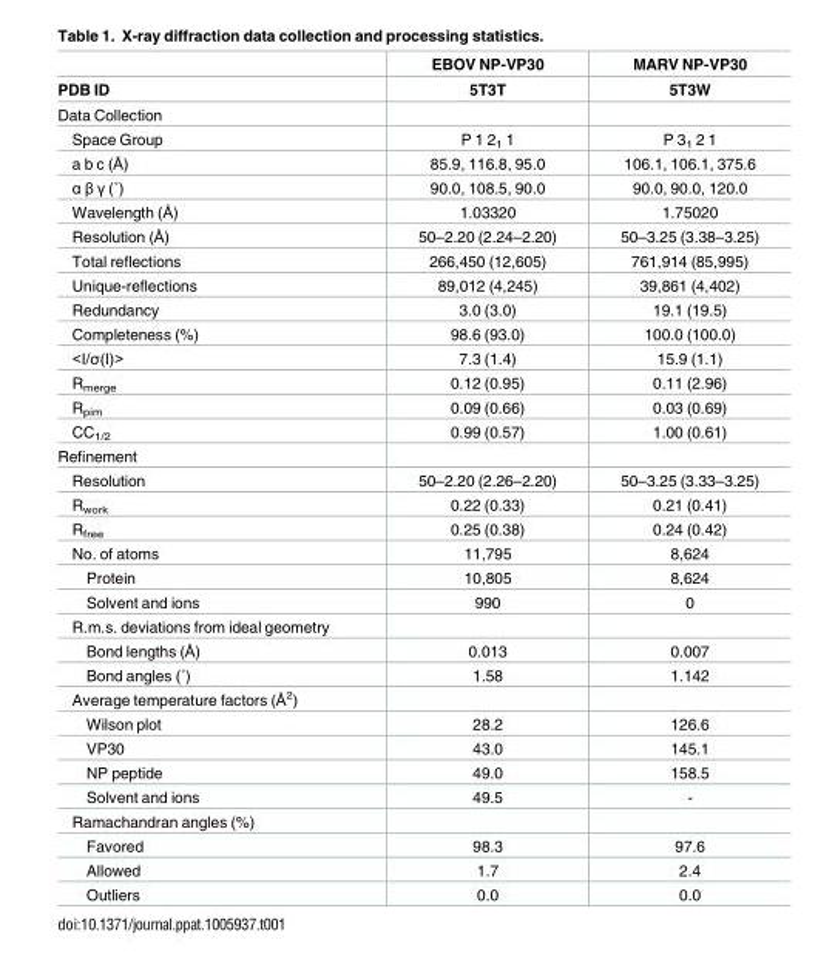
<table><thead><tr><td rowspan="2">PDB ID</td><td rowspan="2">EBOV NP-VP30 5T3T</td><td rowspan="2">MARV NP-VP30 5T3W</td></tr><tr></tr></thead><tbody><tr><td colspan="3">Data Collection</td></tr><tr><td>Space Group</td><td>P 1 2<sub>1</sub> 1</td><td>P 3<sub>1</sub> 2 1</td></tr><tr><td>a b c (Å)</td><td>85.9, 116.8, 95.0</td><td>106.1, 106.1, 375.6</td></tr><tr><td>α β γ (˚)</td><td>90.0, 108.5, 90.0</td><td>90.0, 90.0, 120.0</td></tr><tr><td>Wavelength (Å)</td><td>1.03320</td><td>1.75020</td></tr><tr><td>Resolution (Å)</td><td>50–2.20 (2.24–2.20)</td><td>50–3.25 (3.38–3.25)</td></tr><tr><td>Total reflections</td><td>266,450 (12,605)</td><td>761,914 (85,995)</td></tr><tr><td>Unique-reflections</td><td>89,012 (4,245)</td><td>39,861 (4,402)</td></tr><tr><td>Redundancy</td><td>3.0 (3.0)</td><td>19.1 (19.5)</td></tr><tr><td>Completeness (%)</td><td>98.6 (93.0)</td><td>100.0 (100.0)</td></tr><tr><td>&lt;I/σ(I)&gt;</td><td>7.3 (1.4)</td><td>15.9 (1.1)</td></tr><tr><td>R<sub>merge</sub></td><td>0.12 (0.95)</td><td>0.11 (2.96)</td></tr><tr><td>R<sub>pim</sub></td><td>0.09 (0.66)</td><td>0.03 (0.69)</td></tr><tr><td>CC<sub>1/2</sub></td><td>0.99 (0.57)</td><td>1.00 (0.61)</td></tr><tr><td colspan="3">Refinement</td></tr><tr><td>Resolution</td><td>50–2.20 (2.26–2.20)</td><td>50–3.25 (3.33–3.25)</td></tr><tr><td>R<sub>work</sub></td><td>0.22 (0.33)</td><td>0.21 (0.41)</td></tr><tr><td>R<sub>free</sub></td><td>0.25 (0.38)</td><td>0.24 (0.42)</td></tr><tr><td>No. of atoms</td><td>11,795</td><td>8,624</td></tr><tr><td>Protein</td><td>10,805</td><td>8,624</td></tr><tr><td>Solvent and ions</td><td>990</td><td>0</td></tr><tr><td colspan="3">R.m.s. deviations from ideal geometry</td></tr><tr><td>Bond lengths (Å)</td><td>0.013</td><td>0.007</td></tr><tr><td>Bond angles (˚)</td><td>1.58</td><td>1.142</td></tr><tr><td colspan="3">Average temperature factors (Å<sup>2</sup>)</td></tr><tr><td>Wilson plot</td><td>28.2</td><td>126.6</td></tr><tr><td>VP30</td><td>43.0</td><td>145.1</td></tr><tr><td>NP peptide</td><td>49.0</td><td>158.5</td></tr><tr><td>Solvent and ions</td><td>49.5</td><td>-</td></tr><tr><td colspan="3">Ramachandran angles (%)</td></tr><tr><td>Favored</td><td>98.3</td><td>97.6</td></tr><tr><td>Allowed</td><td>1.7</td><td>2.4</td></tr><tr><td>Outliers</td><td>0.0</td><td>0.0</td></tr></tbody></table>